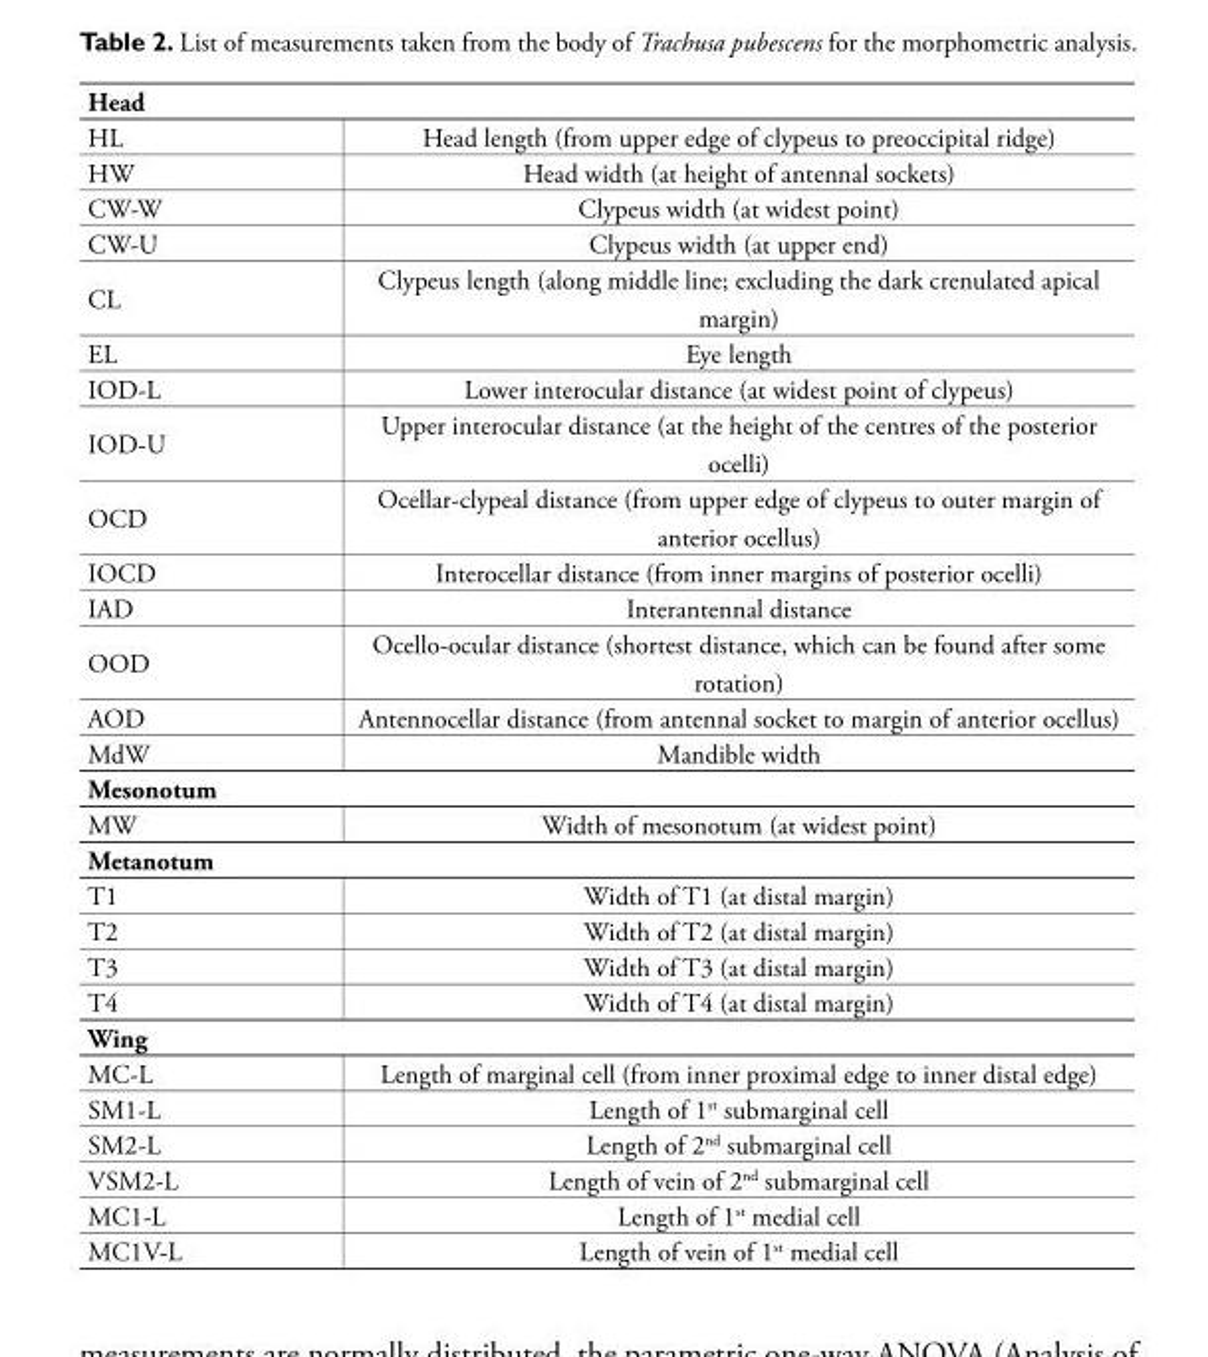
<table><tbody><tr><td colspan="2">Head</td></tr><tr><td>HL</td><td>Head length (from upper edge of clypeus to preoccipital ridge)</td></tr><tr><td>HW</td><td>Head width (at height of antennal sockets)</td></tr><tr><td>CW-W</td><td>Clypeus width (at widest point)</td></tr><tr><td>CW-U</td><td>Clypeus width (at upper end)</td></tr><tr><td>CL</td><td>Clypeus length (along middle line; excluding the dark crenulated apical margin)</td></tr><tr><td>EL</td><td>Eye length</td></tr><tr><td>IOD-L</td><td>Lower interocular distance (at widest point of clypeus)</td></tr><tr><td>IOD-U</td><td>Upper interocular distance (at the height of the centres of the posterior ocelli)</td></tr><tr><td>OCD</td><td>Ocellar-clypeal distance (from upper edge of clypeus to outer margin of anterior ocellus)</td></tr><tr><td>IOCD</td><td>Interocellar distance (from inner margins of posterior ocelli)</td></tr><tr><td>IAD</td><td>Interantennal distance</td></tr><tr><td>OOD</td><td>Ocello-ocular distance (shortest distance, which can be found after some rotation)</td></tr><tr><td>AOD</td><td>Antennocellar distance (from antennal socket to margin of anterior ocellus)</td></tr><tr><td>MdW</td><td>Mandible width</td></tr><tr><td colspan="2">Mesonotum</td></tr><tr><td>MW</td><td>Width of mesonotum (at widest point)</td></tr><tr><td colspan="2">Metanotum</td></tr><tr><td>T1</td><td>Width of T1 (at distal margin)</td></tr><tr><td>T2</td><td>Width of T2 (at distal margin)</td></tr><tr><td>T3</td><td>Width of T3 (at distal margin)</td></tr><tr><td>T4</td><td>Width of T4 (at distal margin)</td></tr><tr><td colspan="2">Wing</td></tr><tr><td>MC-L</td><td>Length of marginal cell (from inner proximal edge to inner distal edge)</td></tr><tr><td>SM1-L</td><td>Length of 1<sup>st</sup> submarginal cell</td></tr><tr><td>SM2-L</td><td>Length of 2<sup>nd</sup> submarginal cell</td></tr><tr><td>VSM2-L</td><td>Length of vein of 2<sup>nd</sup> submarginal cell</td></tr><tr><td>MC1-L</td><td>Length of 1<sup>st</sup> medial cell</td></tr><tr><td>MC1V-L</td><td>Length of vein of 1<sup>st</sup> medial cell</td></tr></tbody></table>